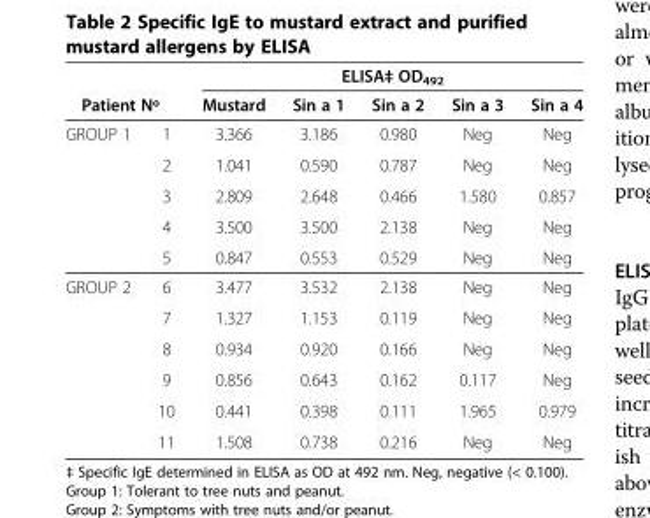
<table><thead><tr><td></td><td></td><td colspan="5">ELISA‡ OD<sub>492</sub></td></tr><tr><td colspan="2">Patient Nº</td><td>Mustard</td><td>Sin a 1</td><td>Sin a 2</td><td>Sin a 3</td><td>Sin a 4</td></tr></thead><tbody><tr><td rowspan="5">GROUP 1</td><td>1</td><td>3.366</td><td>3.186</td><td>0.980</td><td>Neg</td><td>Neg</td></tr><tr><td>2</td><td>1.041</td><td>0.590</td><td>0.787</td><td>Neg</td><td>Neg</td></tr><tr><td>3</td><td>2.809</td><td>2.648</td><td>0.466</td><td>1.580</td><td>0.857</td></tr><tr><td>4</td><td>3.500</td><td>3.500</td><td>2.138</td><td>Neg</td><td>Neg</td></tr><tr><td>5</td><td>0.847</td><td>0.553</td><td>0.529</td><td>Neg</td><td>Neg</td></tr><tr><td rowspan="6">GROUP 2</td><td>6</td><td>3.477</td><td>3.532</td><td>2.138</td><td>Neg</td><td>Neg</td></tr><tr><td>7</td><td>1.327</td><td>1.153</td><td>0.119</td><td>Neg</td><td>Neg</td></tr><tr><td>8</td><td>0.934</td><td>0.920</td><td>0.166</td><td>Neg</td><td>Neg</td></tr><tr><td>9</td><td>0.856</td><td>0.643</td><td>0.162</td><td>0.117</td><td>Neg</td></tr><tr><td>10</td><td>0.441</td><td>0.398</td><td>0.111</td><td>1.965</td><td>0.979</td></tr><tr><td>11</td><td>1.508</td><td>0.738</td><td>0.216</td><td>Neg</td><td>Neg</td></tr></tbody></table>